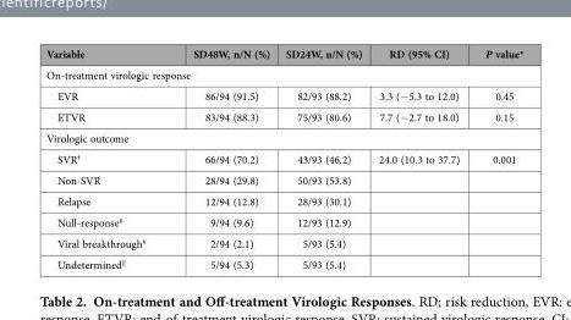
<table><thead><tr><td>Variable</td><td>SD48W, n/N (%)</td><td>SD24W, n/N (%)</td><td>RD (95% CI)</td><td>P value*</td></tr></thead><tbody><tr><td colspan="5">On-treatment virologic response</td></tr><tr><td>EVR</td><td>86/94 (91.5)</td><td>82/93 (88.2)</td><td>3.3 (− 5.3 to 12.0)</td><td>0.45</td></tr><tr><td>ETVR</td><td>83/94 (88.3)</td><td>75/93 (80.6)</td><td>7.7 (− 2.7 to 18.0)</td><td>0.15</td></tr><tr><td colspan="5">Virologic outcome</td></tr><tr><td>SVR†</td><td>66/94 (70.2)</td><td>43/93 (46.2)</td><td>24.0 (10.3 to 37.7)</td><td>0.001</td></tr><tr><td>Non-SVR</td><td>28/94 (29.8)</td><td>50/93 (53.8)</td><td></td><td></td></tr><tr><td>Relapse</td><td>12/94 (12.8)</td><td>28/93 (30.1)</td><td></td><td></td></tr><tr><td>Null-response‡</td><td>9/94 (9.6)</td><td>12/93 (12.9)</td><td></td><td></td></tr><tr><td>Viral breakthrough§</td><td>2/94 (2.1)</td><td>5/93 (5.4)</td><td></td><td></td></tr><tr><td>Undetermined||</td><td>5/94 (5.3)</td><td>5/93 (5.4)</td><td></td><td></td></tr></tbody></table>